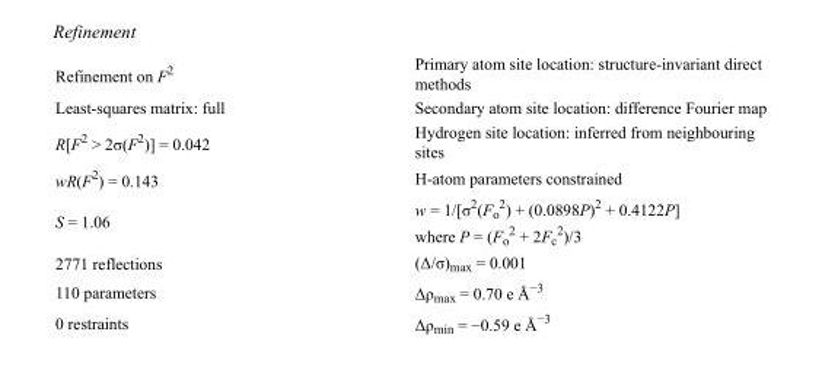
<table><tbody><tr><td>Refinement on F<sup>2</sup></td><td>Primary atom site location: structure-invariant direct methods</td></tr><tr><td>Least-squares matrix: full</td><td>Secondary atom site location: difference Fourier map</td></tr><tr><td>R[F<sup>2</sup> &gt; 2σ(F<sup>2</sup>)] = 0.042</td><td>Hydrogen site location: inferred from neighbouring sites</td></tr><tr><td>wR(F<sup>2</sup>) = 0.143</td><td>H-atom parameters constrained</td></tr><tr><td>S = 1.06</td><td>w = 1/[σ<sup>2</sup>(F<sub>o</sub> <sup>2</sup>) + (0.0898P)<sup>2</sup> + 0.4122P] where P = (F<sub>o</sub> <sup>2</sup> + 2F<sub>c</sub> <sup>2</sup>)/3</td></tr><tr><td>2771 reflections</td><td>(Δ/σ)<sub>max</sub> = 0.001</td></tr><tr><td>110 parameters</td><td>Δρ<sub>max</sub> = 0.70 e Å<sup>−3</sup></td></tr><tr><td>0 restraints</td><td>Δρ<sub>min</sub> = −0.59 e Å<sup>−3</sup></td></tr></tbody></table>